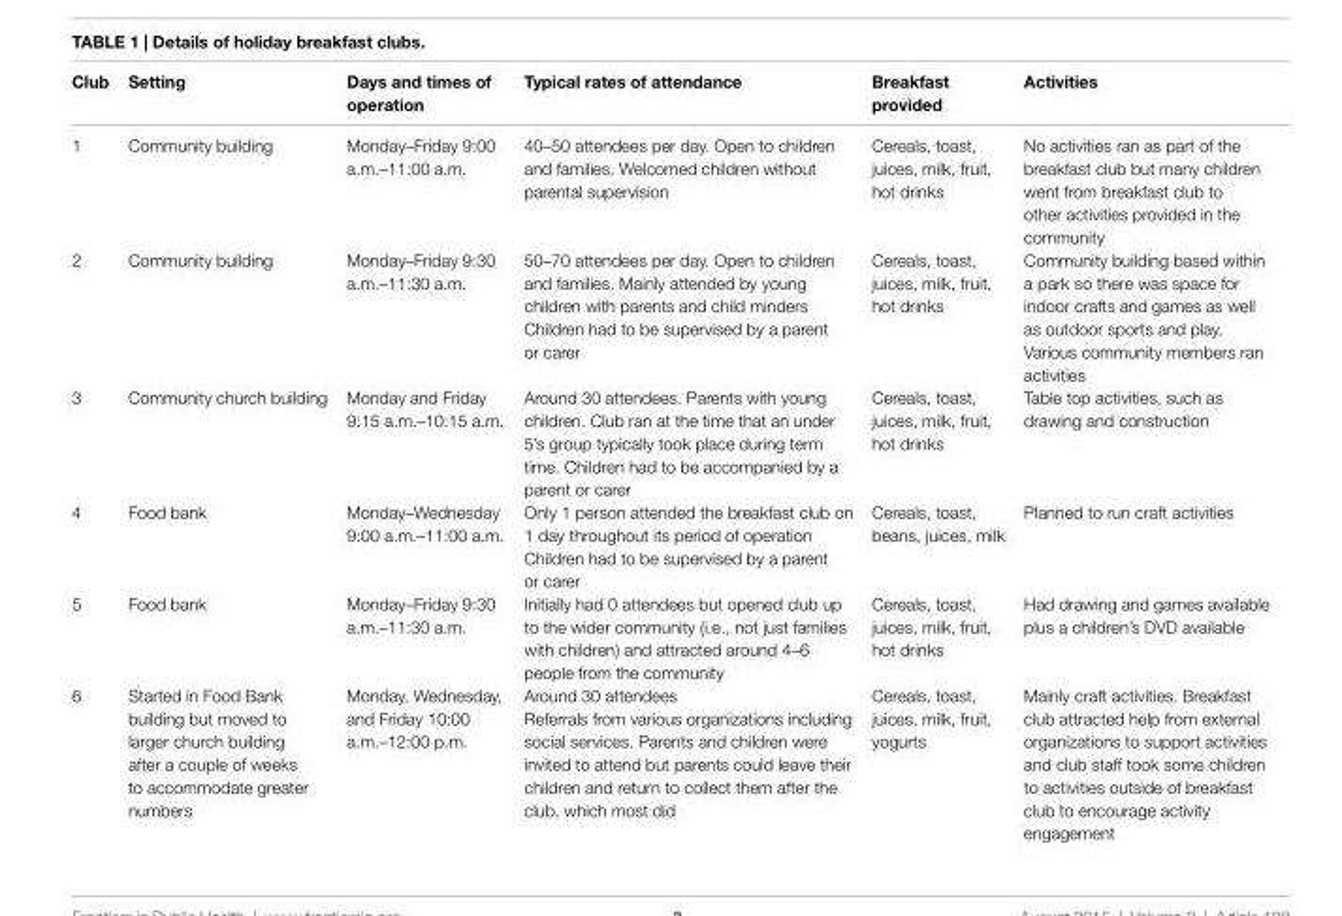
<table><thead><tr><td>club</td><td>setting</td><td>Days and times of operation</td><td>Typical rates of attendance</td><td>Breakfast provided</td><td>activities</td></tr></thead><tbody><tr><td>1</td><td>Community building</td><td>Monday–Friday 9:00 a.m.–11:00 a.m.</td><td>40–50 attendees per day. Open to children and families. Welcomed children without parental supervision</td><td>Cereals, toast, juices, milk, fruit, hot drinks</td><td>No activities ran as part of the breakfast club but many children went from breakfast club to other activities provided in the community</td></tr><tr><td rowspan="2">2</td><td rowspan="2">Community building</td><td rowspan="2">Monday–Friday 9:30 a.m.–11:30 a.m.</td><td>50–70 attendees per day. Open to children and families. Mainly attended by young children with parents and child minders</td><td rowspan="2">Cereals, toast, juices, milk, fruit, hot drinks</td><td rowspan="2">Community building based within a park so there was space for indoor crafts and games as well as outdoor sports and play. Various community members ran activities</td></tr><tr><td>Children had to be supervised by a parent or carer</td></tr><tr><td>3</td><td>Community church building</td><td>Monday and Friday 9:15 a.m.–10:15 a.m.</td><td>Around 30 attendees. Parents with young children. Club ran at the time that an under 5’s group typically took place during term time. Children had to be accompanied by a parent or carer</td><td>Cereals, toast, juices, milk, fruit, hot drinks</td><td>Table top activities, such as drawing and construction</td></tr><tr><td rowspan="2">4</td><td rowspan="2">Food bank</td><td rowspan="2">Monday–Wednesday 9:00 a.m.–11:00 a.m.</td><td>Only 1 person attended the breakfast club on 1 day throughout its period of operation</td><td rowspan="2">Cereals, toast, beans, juices, milk</td><td rowspan="2">Planned to run craft activities</td></tr><tr><td>Children had to be supervised by a parent or carer</td></tr><tr><td>5</td><td>Food bank</td><td>Monday–Friday 9:30 a.m.–11:30 a.m.</td><td>Initially had 0 attendees but opened club up to the wider community (i.e., not just families with children) and attracted around 4–6 people from the community</td><td>Cereals, toast, juices, milk, fruit, hot drinks</td><td>Had drawing and games available plus a children’s DVD available</td></tr><tr><td rowspan="2">6</td><td rowspan="2">Started in Food Bank building but moved to larger church building after a couple of weeks to accommodate greater numbers</td><td rowspan="2">Monday, Wednesday, and Friday 10:00 a.m.–12:00 p.m.</td><td>Around 30 attendees</td><td rowspan="2">Cereals, toast, juices, milk, fruit, yogurts</td><td rowspan="2">Mainly craft activities. Breakfast club attracted help from external organizations to support activities and club staff took some children to activities outside of breakfast club to encourage activity engagement</td></tr><tr><td>Referrals from various organizations including social services. Parents and children were invited to attend but parents could leave their children and return to collect them after the club, which most did</td></tr></tbody></table>